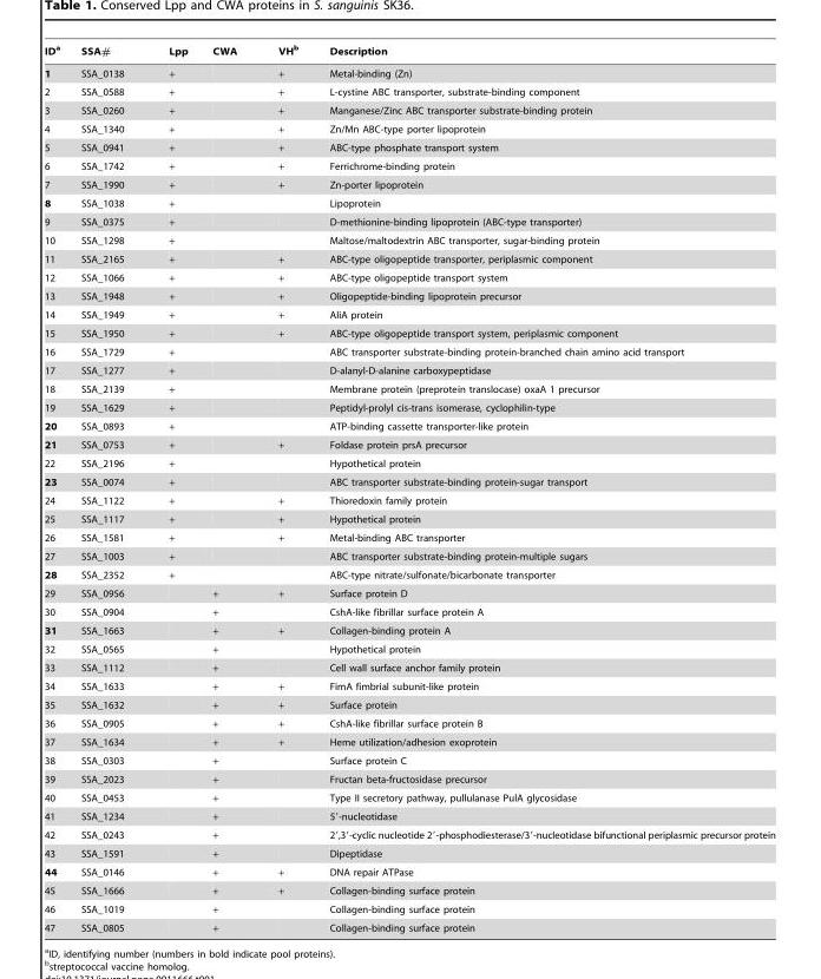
<table><thead><tr><td>ID<sup>a</sup></td><td>SSA#</td><td>Lpp</td><td>CWA</td><td>VH<sup>b</sup></td><td>Description</td></tr></thead><tbody><tr><td>1</td><td>SSA_0138</td><td>+</td><td></td><td>+</td><td>Metal-binding (Zn)</td></tr><tr><td>2</td><td>SSA_0588</td><td>+</td><td></td><td>+</td><td>L-cystine ABC transporter, substrate-binding component</td></tr><tr><td>3</td><td>SSA_0260</td><td>+</td><td></td><td>+</td><td>Manganese/Zinc ABC transporter substrate-binding protein</td></tr><tr><td>4</td><td>SSA_1340</td><td>+</td><td></td><td>+</td><td>Zn/Mn ABC-type porter lipoprotein</td></tr><tr><td>5</td><td>SSA_0941</td><td>+</td><td></td><td>+</td><td>ABC-type phosphate transport system</td></tr><tr><td>6</td><td>SSA_1742</td><td>+</td><td></td><td>+</td><td>Ferrichrome-binding protein</td></tr><tr><td>7</td><td>SSA_1990</td><td>+</td><td></td><td>+</td><td>Zn-porter lipoprotein</td></tr><tr><td>8</td><td>SSA_1038</td><td>+</td><td></td><td></td><td>Lipoprotein</td></tr><tr><td>9</td><td>SSA_0375</td><td>+</td><td></td><td></td><td>D-methionine-binding lipoprotein (ABC-type transporter)</td></tr><tr><td>10</td><td>SSA_1298</td><td>+</td><td></td><td></td><td>Maltose/maltodextrin ABC transporter, sugar-binding protein</td></tr><tr><td>11</td><td>SSA_2165</td><td>+</td><td></td><td>+</td><td>ABC-type oligopeptide transporter, periplasmic component</td></tr><tr><td>12</td><td>SSA_1066</td><td>+</td><td></td><td>+</td><td>ABC-type oligopeptide transport system</td></tr><tr><td>13</td><td>SSA_1948</td><td>+</td><td></td><td>+</td><td>Oligopeptide-binding lipoprotein precursor</td></tr><tr><td>14</td><td>SSA_1949</td><td>+</td><td></td><td>+</td><td>AliA protein</td></tr><tr><td>15</td><td>SSA_1950</td><td>+</td><td></td><td>+</td><td>ABC-type oligopeptide transport system, periplasmic component</td></tr><tr><td>16</td><td>SSA_1729</td><td>+</td><td></td><td></td><td>ABC transporter substrate-binding protein-branched chain amino acid transport</td></tr><tr><td>17</td><td>SSA_1277</td><td>+</td><td></td><td></td><td>D-alanyl-D-alanine carboxypeptidase</td></tr><tr><td>18</td><td>SSA_2139</td><td>+</td><td></td><td></td><td>Membrane protein (preprotein translocase) oxaA 1 precursor</td></tr><tr><td>19</td><td>SSA_1629</td><td>+</td><td></td><td></td><td>Peptidyl-prolyl cis-trans isomerase, cyclophilin-type</td></tr><tr><td>20</td><td>SSA_0893</td><td>+</td><td></td><td></td><td>ATP-binding cassette transporter-like protein</td></tr><tr><td>21</td><td>SSA_0753</td><td>+</td><td></td><td>+</td><td>Foldase protein prsA precursor</td></tr><tr><td>22</td><td>SSA_2196</td><td>+</td><td></td><td></td><td>Hypothetical protein</td></tr><tr><td>23</td><td>SSA_0074</td><td>+</td><td></td><td></td><td>ABC transporter substrate-binding protein-sugar transport</td></tr><tr><td>24</td><td>SSA_1122</td><td>+</td><td></td><td>+</td><td>Thioredoxin family protein</td></tr><tr><td>25</td><td>SSA_1117</td><td>+</td><td></td><td>+</td><td>Hypothetical protein</td></tr><tr><td>26</td><td>SSA_1581</td><td>+</td><td></td><td>+</td><td>Metal-binding ABC transporter</td></tr><tr><td>27</td><td>SSA_1003</td><td>+</td><td></td><td></td><td>ABC transporter substrate-binding protein-multiple sugars</td></tr><tr><td>28</td><td>SSA_2352</td><td>+</td><td></td><td></td><td>ABC-type nitrate/sulfonate/bicarbonate transporter</td></tr><tr><td>29</td><td>SSA_0956</td><td></td><td>+</td><td>+</td><td>Surface protein D</td></tr><tr><td>30</td><td>SSA_0904</td><td></td><td>+</td><td></td><td>CshA-like fibrillar surface protein A</td></tr><tr><td>31</td><td>SSA_1663</td><td></td><td>+</td><td>+</td><td>Collagen-binding protein A</td></tr><tr><td>32</td><td>SSA_0565</td><td></td><td>+</td><td></td><td>Hypothetical protein</td></tr><tr><td>33</td><td>SSA_1112</td><td></td><td>+</td><td></td><td>Cell wall surface anchor family protein</td></tr><tr><td>34</td><td>SSA_1633</td><td></td><td>+</td><td>+</td><td>FimA fimbrial subunit-like protein</td></tr><tr><td>35</td><td>SSA_1632</td><td></td><td>+</td><td>+</td><td>Surface protein</td></tr><tr><td>36</td><td>SSA_0905</td><td></td><td>+</td><td>+</td><td>CshA-like fibrillar surface protein B</td></tr><tr><td>37</td><td>SSA_1634</td><td></td><td>+</td><td>+</td><td>Heme utilization/adhesion exoprotein</td></tr><tr><td>38</td><td>SSA_0303</td><td></td><td>+</td><td></td><td>Surface protein C</td></tr><tr><td>39</td><td>SSA_2023</td><td></td><td>+</td><td></td><td>Fructan beta-fructosidase precursor</td></tr><tr><td>40</td><td>SSA_0453</td><td></td><td>+</td><td></td><td>Type II secretory pathway, pullulanase PulA glycosidase</td></tr><tr><td>41</td><td>SSA_1234</td><td></td><td>+</td><td></td><td>5′-nucleotidase</td></tr><tr><td>42</td><td>SSA_0243</td><td></td><td>+</td><td></td><td>2′,3′-cyclic nucleotide 2′-phosphodiesterase/3′-nucleotidase bifunctional periplasmic precursor protein</td></tr><tr><td>43</td><td>SSA_1591</td><td></td><td>+</td><td></td><td>Dipeptidase</td></tr><tr><td>44</td><td>SSA_0146</td><td></td><td>+</td><td>+</td><td>DNA repair ATPase</td></tr><tr><td>45</td><td>SSA_1666</td><td></td><td>+</td><td>+</td><td>Collagen-binding surface protein</td></tr><tr><td>46</td><td>SSA_1019</td><td></td><td>+</td><td></td><td>Collagen-binding surface protein</td></tr><tr><td>47</td><td>SSA_0805</td><td></td><td>+</td><td></td><td>Collagen-binding surface protein</td></tr></tbody></table>